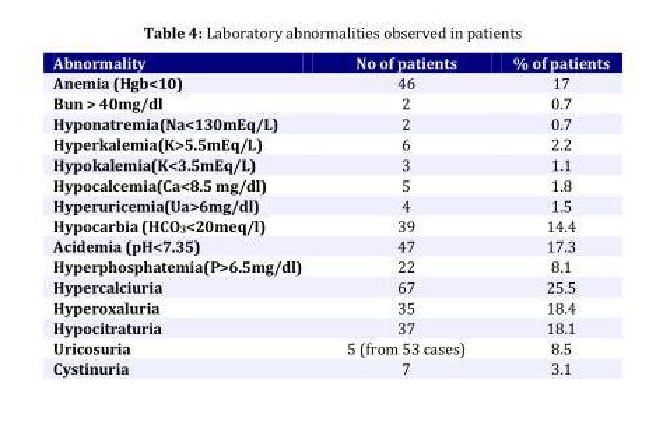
<table><tbody><tr><td>Abnormality</td><td>No of patients</td><td>% of patients</td></tr><tr><td>Anemia (Hgb&lt;10)</td><td>46</td><td>17</td></tr><tr><td>Bun &gt; 40mg/dl</td><td>2</td><td>0.7</td></tr><tr><td>Hyponatremia(Na&lt;130mEq/L)</td><td>2</td><td>0.7</td></tr><tr><td>Hyperkalemia(K&gt;5.5mEq/L)</td><td>6</td><td>2.2</td></tr><tr><td>Hypokalemia(K&lt;3.5mEq/L)</td><td>3</td><td>1.1</td></tr><tr><td>Hypocalcemia(Ca&lt;8.5 mg/dl)</td><td>5</td><td>1.8</td></tr><tr><td>Hyperuricemia(Ua&gt;6mg/dl)</td><td>4</td><td>1.5</td></tr><tr><td>Hypocarbia (HCO<sub>3</sub>&lt;20meq/l)</td><td>39</td><td>14.4</td></tr><tr><td>Acidemia (pH&lt;7.35)</td><td>47</td><td>17.3</td></tr><tr><td>Hyperphosphatemia(P&gt;6.5mg/dl)</td><td>22</td><td>8.1</td></tr><tr><td>Hypercalciuria</td><td>67</td><td>25.5</td></tr><tr><td>Hyperoxaluria</td><td>35</td><td>18.4</td></tr><tr><td>Hypocitraturia</td><td>37</td><td>18.1</td></tr><tr><td>Uricosuria</td><td>5 (from 53 cases)</td><td>8.5</td></tr><tr><td>Cystinuria</td><td>7</td><td>3.1</td></tr></tbody></table>